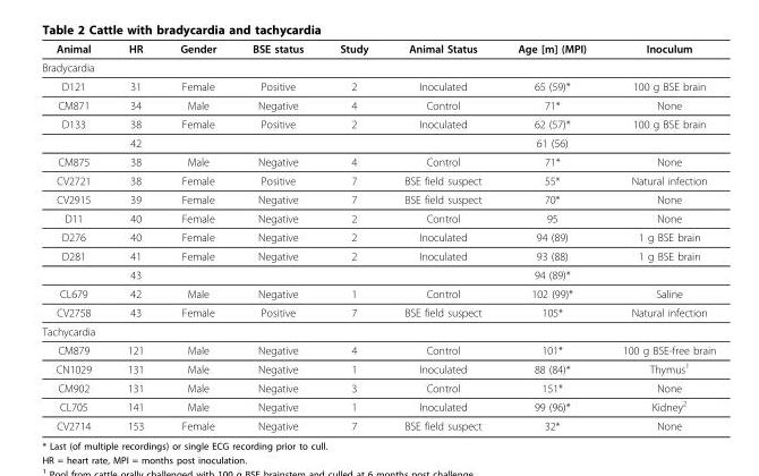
<table><thead><tr><td>Animal</td><td>HR</td><td>Gender</td><td>BSE status</td><td>Study</td><td>Animal Status</td><td>Age [m] (MPI)</td><td>Inoculum</td></tr></thead><tbody><tr><td colspan="8">Bradycardia</td></tr><tr><td>D121</td><td>31</td><td>Female</td><td>Positive</td><td>2</td><td>Inoculated</td><td>65 (59)*</td><td>100 g BSE brain</td></tr><tr><td>CM871</td><td>34</td><td>Male</td><td>Negative</td><td>4</td><td>Control</td><td>71*</td><td>None</td></tr><tr><td rowspan="2">D133</td><td>38</td><td>Female</td><td>Positive</td><td>2</td><td>Inoculated</td><td>62 (57)*</td><td>100 g BSE brain</td></tr><tr><td>42</td><td></td><td></td><td></td><td></td><td>61 (56)</td><td></td></tr><tr><td>CM875</td><td>38</td><td>Male</td><td>Negative</td><td>4</td><td>Control</td><td>71*</td><td>None</td></tr><tr><td>CV2721</td><td>38</td><td>Female</td><td>Positive</td><td>7</td><td>BSE field suspect</td><td>55*</td><td>Natural infection</td></tr><tr><td>CV2915</td><td>39</td><td>Female</td><td>Negative</td><td>7</td><td>BSE field suspect</td><td>70*</td><td>None</td></tr><tr><td>D11</td><td>40</td><td>Female</td><td>Negative</td><td>2</td><td>Control</td><td>95</td><td>None</td></tr><tr><td>D276</td><td>40</td><td>Female</td><td>Negative</td><td>2</td><td>Inoculated</td><td>94 (89)</td><td>1 g BSE brain</td></tr><tr><td rowspan="2">D281</td><td>41</td><td>Female</td><td>Negative</td><td>2</td><td>Inoculated</td><td>93 (88)</td><td>1 g BSE brain</td></tr><tr><td>43</td><td></td><td></td><td></td><td></td><td>94 (89)*</td><td></td></tr><tr><td>CL679</td><td>42</td><td>Male</td><td>Negative</td><td>1</td><td>Control</td><td>102 (99)*</td><td>Saline</td></tr><tr><td>CV2758</td><td>43</td><td>Female</td><td>Positive</td><td>7</td><td>BSE field suspect</td><td>105*</td><td>Natural infection</td></tr><tr><td colspan="8">Tachycardia</td></tr><tr><td>CM879</td><td>121</td><td>Male</td><td>Negative</td><td>4</td><td>Control</td><td>101*</td><td>100 g BSE-free brain</td></tr><tr><td>CN1029</td><td>131</td><td>Male</td><td>Negative</td><td>1</td><td>Inoculated</td><td>88 (84)*</td><td>Thymus<sup>1</sup></td></tr><tr><td>CM902</td><td>131</td><td>Male</td><td>Negative</td><td>3</td><td>Control</td><td>151*</td><td>None</td></tr><tr><td>CL705</td><td>141</td><td>Male</td><td>Negative</td><td>1</td><td>Inoculated</td><td>99 (96)*</td><td>Kidney<sup>2</sup></td></tr><tr><td>CV2714</td><td>153</td><td>Female</td><td>Negative</td><td>7</td><td>BSE field suspect</td><td>32*</td><td>None</td></tr></tbody></table>